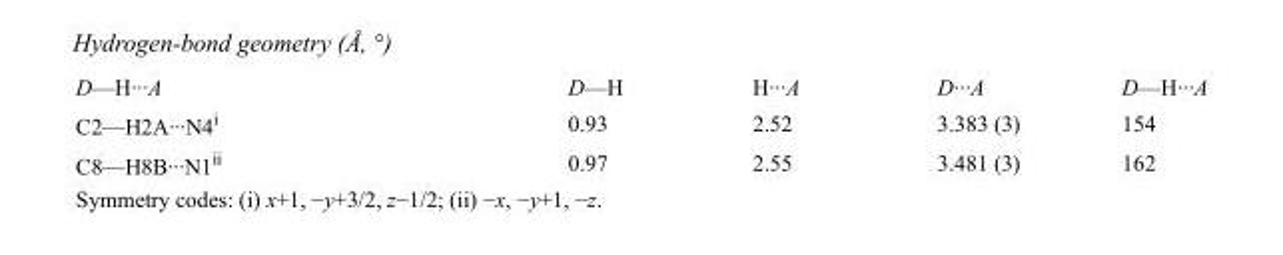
<table><tbody><tr><td>D—H···A</td><td>D—H</td><td>H···A</td><td>D···A</td><td>D—H···A</td></tr><tr><td>C2—H2A···N4<sup>i</sup></td><td>0.93</td><td>2.52</td><td>3.383 (3)</td><td>154</td></tr><tr><td>C8—H8B···N1<sup>ii</sup></td><td>0.97</td><td>2.55</td><td>3.481 (3)</td><td>162</td></tr></tbody></table>